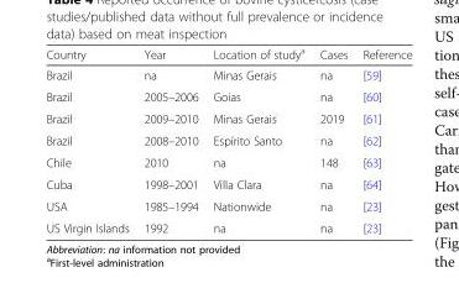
<table><thead><tr><td>Country</td><td>Year</td><td>Location of study<sup>a</sup></td><td>Cases</td><td>Reference</td></tr></thead><tbody><tr><td>Brazil</td><td>na</td><td>Minas Gerais</td><td>na</td><td>[59]</td></tr><tr><td>Brazil</td><td>2005–2006</td><td>Goias</td><td>na</td><td>[60]</td></tr><tr><td>Brazil</td><td>2009–2010</td><td>Minas Gerais</td><td>2019</td><td>[61]</td></tr><tr><td>Brazil</td><td>2008–2010</td><td>Espírito Santo</td><td>na</td><td>[62]</td></tr><tr><td>Chile</td><td>2010</td><td>na</td><td>148</td><td>[63]</td></tr><tr><td>Cuba</td><td>1998–2001</td><td>Villa Clara</td><td>na</td><td>[64]</td></tr><tr><td>USA</td><td>1985–1994</td><td>Nationwide</td><td>na</td><td>[23]</td></tr><tr><td>US Virgin Islands</td><td>1992</td><td>na</td><td>na</td><td>[23]</td></tr></tbody></table>